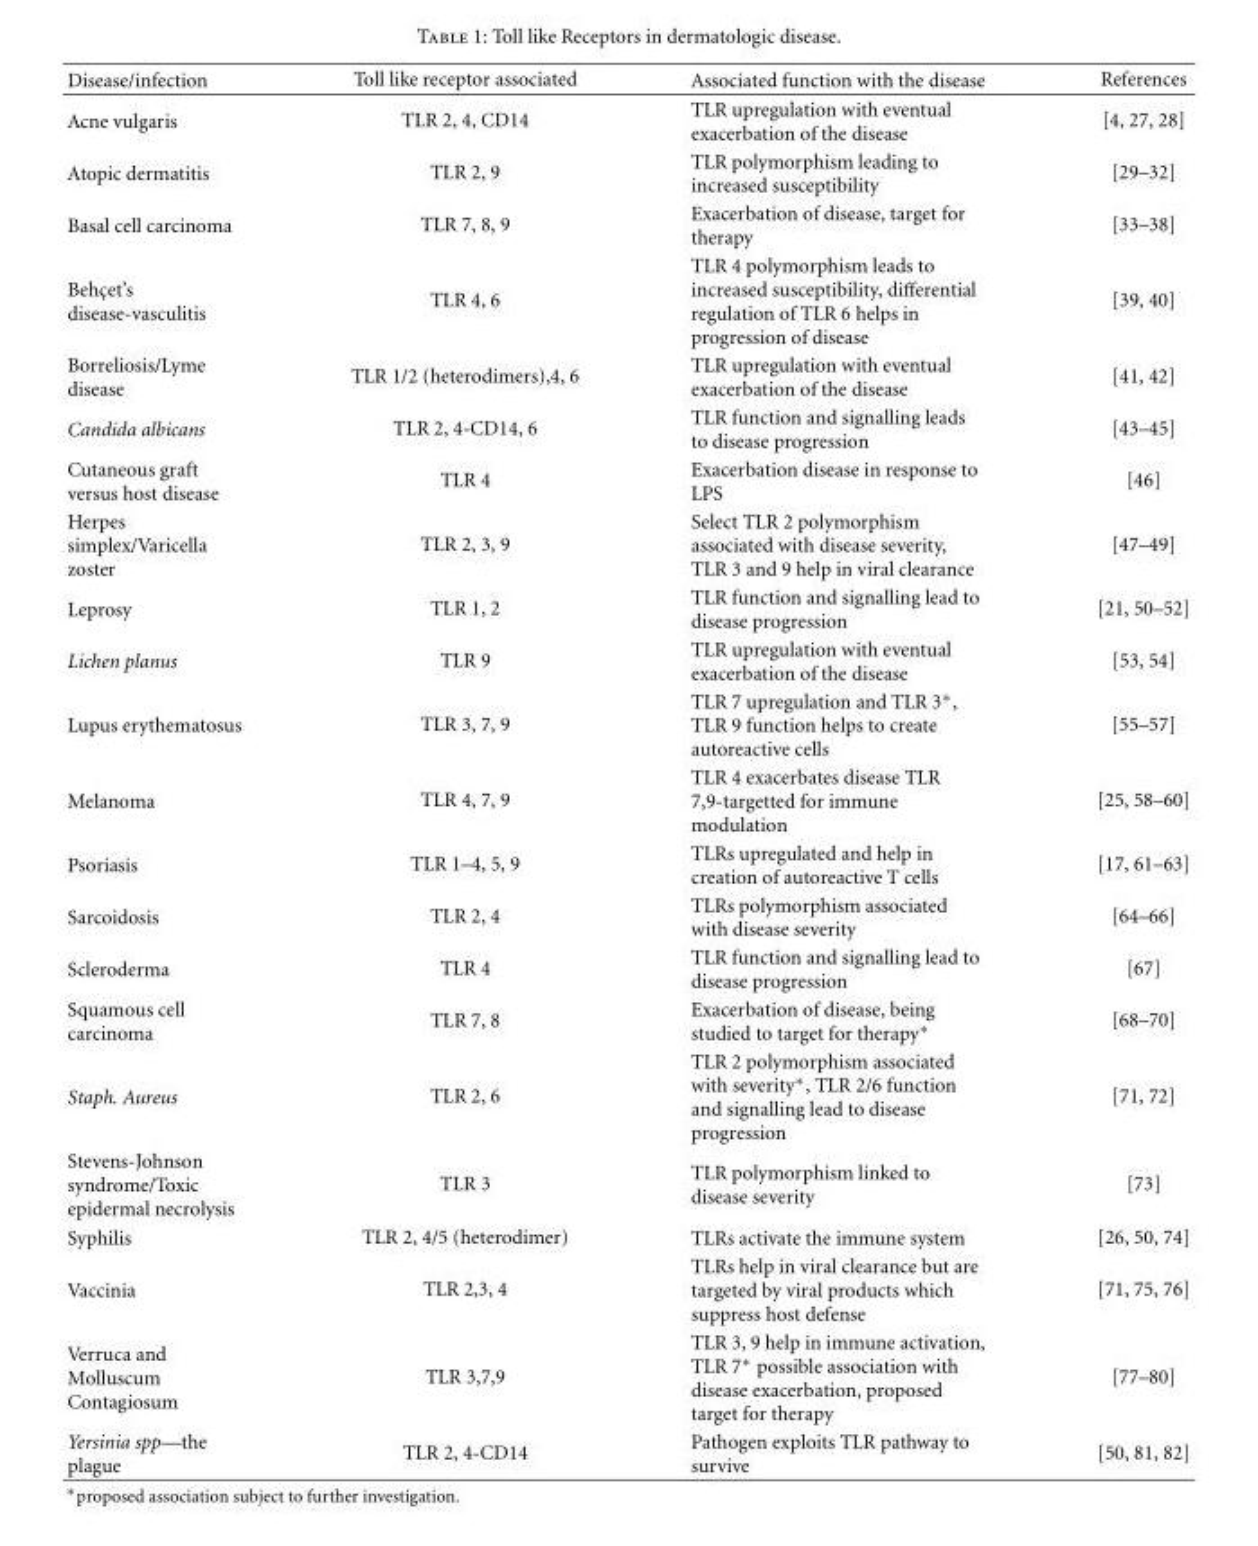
<table><thead><tr><td>Disease/infection</td><td>Toll like receptor associated</td><td>Associated function with the disease</td><td>References</td></tr></thead><tbody><tr><td>Acne vulgaris</td><td>TLR 2, 4, CD14</td><td>TLR upregulation with eventual exacerbation of the disease</td><td>[4, 27, 28]</td></tr><tr><td>Atopic dermatitis</td><td>TLR 2, 9</td><td>TLR polymorphism leading to increased susceptibility</td><td>[29–32]</td></tr><tr><td>Basal cell carcinoma</td><td>TLR 7, 8, 9</td><td>Exacerbation of disease, target for therapy</td><td>[33–38]</td></tr><tr><td>Behc¸et’s disease-vasculitis</td><td>TLR 4, 6</td><td>TLR 4 polymorphism leads to increased susceptibility, differential regulation of TLR 6 helps in progression of disease</td><td>[39, 40]</td></tr><tr><td>Borreliosis/Lyme disease</td><td>TLR 1/2 (heterodimers),4, 6</td><td>TLR upregulation with eventual exacerbation of the disease</td><td>[41, 42]</td></tr><tr><td>Candida albicans</td><td>TLR 2, 4-CD14, 6</td><td>TLR function and signalling leads to disease progression</td><td>[43–45]</td></tr><tr><td>Cutaneous graft versus host disease</td><td>TLR 4</td><td>Exacerbation disease in response to LPS</td><td>[46]</td></tr><tr><td>Herpes simplex/Varicella zoster</td><td>TLR 2, 3, 9</td><td>Select TLR 2 polymorphism associated with disease severity, TLR 3 and 9 help in viral clearance</td><td>[47–49]</td></tr><tr><td>Leprosy</td><td>TLR 1, 2</td><td>TLR function and signalling lead to disease progression</td><td>[21, 50–52]</td></tr><tr><td>Lichen planus</td><td>TLR 9</td><td>TLR upregulation with eventual exacerbation of the disease</td><td>[53, 54]</td></tr><tr><td>Lupus erythematosus</td><td>TLR 3, 7, 9</td><td>TLR 7 upregulation and TLR 3∗, TLR 9 function helps to create autoreactive cells</td><td>[55–57]</td></tr><tr><td>Melanoma</td><td>TLR 4, 7, 9</td><td>TLR 4 exacerbates disease TLR 7,9-targetted for immune modulation</td><td>[25, 58–60]</td></tr><tr><td>Psoriasis</td><td>TLR 1–4, 5, 9</td><td>TLRs upregulated and help in creation of autoreactive T cells</td><td>[17, 61–63]</td></tr><tr><td>Sarcoidosis</td><td>TLR 2, 4</td><td>TLRs polymorphism associated with disease severity</td><td>[64–66]</td></tr><tr><td>Scleroderma</td><td>TLR 4</td><td>TLR function and signalling lead to disease progression</td><td>[67]</td></tr><tr><td>Squamous cell carcinoma</td><td>TLR 7, 8</td><td>Exacerbation of disease, being studied to target for therapy∗</td><td>[68–70]</td></tr><tr><td>Staph. Aureus</td><td>TLR 2, 6</td><td>TLR 2 polymorphism associated with severity∗, TLR 2/6 function and signalling lead to disease progression</td><td>[71, 72]</td></tr><tr><td>Stevens-Johnson syndrome/Toxic epidermal necrolysis</td><td>TLR 3</td><td>TLR polymorphism linked to disease severity</td><td>[73]</td></tr><tr><td>Syphilis</td><td>TLR 2, 4/5 (heterodimer)</td><td>TLRs activate the immune system</td><td>[26, 50, 74]</td></tr><tr><td>Vaccinia</td><td>TLR 2,3, 4</td><td>TLRs help in viral clearance but are targeted by viral products which suppress host defense</td><td>[71, 75, 76]</td></tr><tr><td>Verruca and Molluscum Contagiosum</td><td>TLR 3,7,9</td><td>TLR 3, 9 help in immune activation, TLR 7∗ possible association with disease exacerbation, proposed target for therapy</td><td>[77–80]</td></tr><tr><td>Yersinia spp—the plague</td><td>TLR 2, 4-CD14</td><td>Pathogen exploits TLR pathway to survive</td><td>[50, 81, 82]</td></tr></tbody></table>